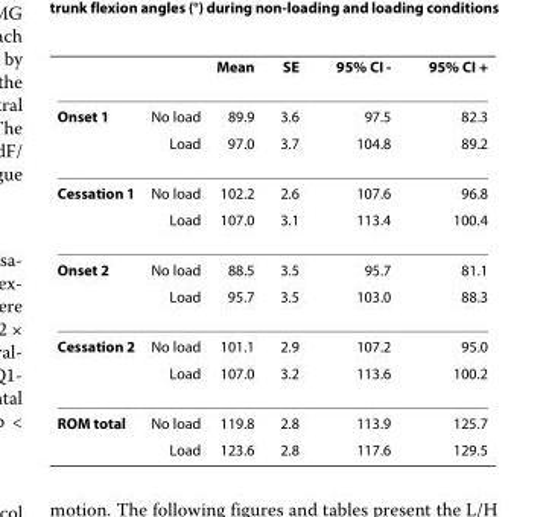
<table><thead><tr><td></td><td></td><td>Mean</td><td>SE</td><td>95% CI -</td><td>95% CI +</td></tr></thead><tbody><tr><td rowspan="2">Onset 1</td><td>No load</td><td>89.9</td><td>3.6</td><td>97.5</td><td>82.3</td></tr><tr><td>Load</td><td>97.0</td><td>3.7</td><td>104.8</td><td>89.2</td></tr><tr><td rowspan="2">Cessation 1</td><td>No load</td><td>102.2</td><td>2.6</td><td>107.6</td><td>96.8</td></tr><tr><td>Load</td><td>107.0</td><td>3.1</td><td>113.4</td><td>100.4</td></tr><tr><td rowspan="2">Onset 2</td><td>No load</td><td>88.5</td><td>3.5</td><td>95.7</td><td>81.1</td></tr><tr><td>Load</td><td>95.7</td><td>3.5</td><td>103.0</td><td>88.3</td></tr><tr><td rowspan="2">Cessation 2</td><td>No load</td><td>101.1</td><td>2.9</td><td>107.2</td><td>95.0</td></tr><tr><td>Load</td><td>107.0</td><td>3.2</td><td>113.6</td><td>100.2</td></tr><tr><td rowspan="2">ROM total</td><td>No load</td><td>119.8</td><td>2.8</td><td>113.9</td><td>125.7</td></tr><tr><td>Load</td><td>123.6</td><td>2.8</td><td>117.6</td><td>129.5</td></tr></tbody></table>